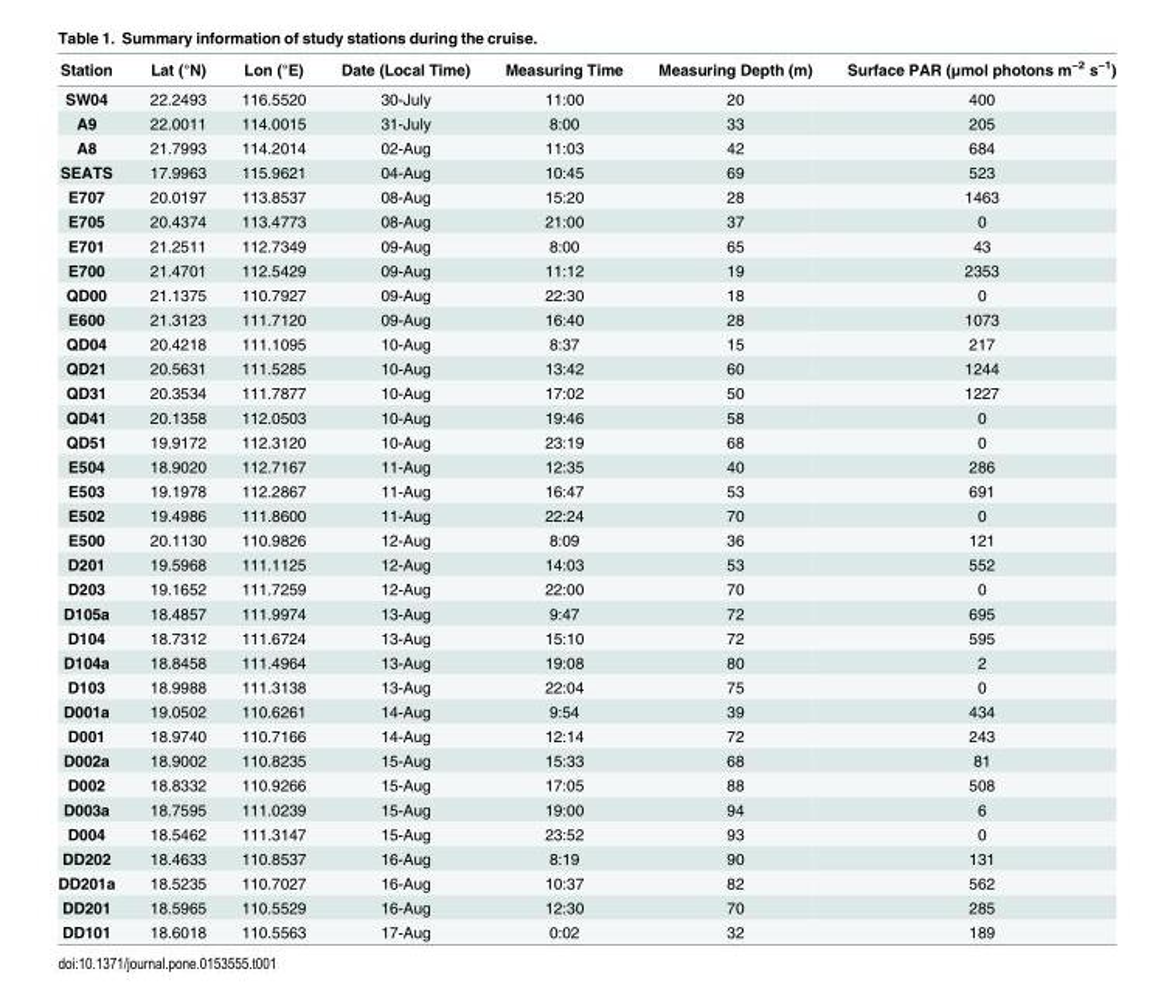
<table><thead><tr><td>Station</td><td>Lat (°N)</td><td>Lon (°E)</td><td>Date (Local Time)</td><td>Measuring Time</td><td>Measuring Depth (m)</td><td>Surface PAR (μmol photons m<sup>−2</sup> s<sup>−1</sup>)</td></tr></thead><tbody><tr><td>SW04</td><td>22.2493</td><td>116.5520</td><td>30-July</td><td>11:00</td><td>20</td><td>400</td></tr><tr><td>A9</td><td>22.0011</td><td>114.0015</td><td>31-July</td><td>8:00</td><td>33</td><td>205</td></tr><tr><td>A8</td><td>21.7993</td><td>114.2014</td><td>02-Aug</td><td>11:03</td><td>42</td><td>684</td></tr><tr><td>SEATS</td><td>17.9963</td><td>115.9621</td><td>04-Aug</td><td>10:45</td><td>69</td><td>523</td></tr><tr><td>E707</td><td>20.0197</td><td>113.8537</td><td>08-Aug</td><td>15:20</td><td>28</td><td>1463</td></tr><tr><td>E705</td><td>20.4374</td><td>113.4773</td><td>08-Aug</td><td>21:00</td><td>37</td><td>0</td></tr><tr><td>E701</td><td>21.2511</td><td>112.7349</td><td>09-Aug</td><td>8:00</td><td>65</td><td>43</td></tr><tr><td>E700</td><td>21.4701</td><td>112.5429</td><td>09-Aug</td><td>11:12</td><td>19</td><td>2353</td></tr><tr><td>QD00</td><td>21.1375</td><td>110.7927</td><td>09-Aug</td><td>22:30</td><td>18</td><td>0</td></tr><tr><td>E600</td><td>21.3123</td><td>111.7120</td><td>09-Aug</td><td>16:40</td><td>28</td><td>1073</td></tr><tr><td>QD04</td><td>20.4218</td><td>111.1095</td><td>10-Aug</td><td>8:37</td><td>15</td><td>217</td></tr><tr><td>QD21</td><td>20.5631</td><td>111.5285</td><td>10-Aug</td><td>13:42</td><td>60</td><td>1244</td></tr><tr><td>QD31</td><td>20.3534</td><td>111.7877</td><td>10-Aug</td><td>17:02</td><td>50</td><td>1227</td></tr><tr><td>QD41</td><td>20.1358</td><td>112.0503</td><td>10-Aug</td><td>19:46</td><td>58</td><td>0</td></tr><tr><td>QD51</td><td>19.9172</td><td>112.3120</td><td>10-Aug</td><td>23:19</td><td>68</td><td>0</td></tr><tr><td>E504</td><td>18.9020</td><td>112.7167</td><td>11-Aug</td><td>12:35</td><td>40</td><td>286</td></tr><tr><td>E503</td><td>19.1978</td><td>112.2867</td><td>11-Aug</td><td>16:47</td><td>53</td><td>691</td></tr><tr><td>E502</td><td>19.4986</td><td>111.8600</td><td>11-Aug</td><td>22:24</td><td>70</td><td>0</td></tr><tr><td>E500</td><td>20.1130</td><td>110.9826</td><td>12-Aug</td><td>8:09</td><td>36</td><td>121</td></tr><tr><td>D201</td><td>19.5968</td><td>111.1125</td><td>12-Aug</td><td>14:03</td><td>53</td><td>552</td></tr><tr><td>D203</td><td>19.1652</td><td>111.7259</td><td>12-Aug</td><td>22:00</td><td>70</td><td>0</td></tr><tr><td>D105a</td><td>18.4857</td><td>111.9974</td><td>13-Aug</td><td>9:47</td><td>72</td><td>695</td></tr><tr><td>D104</td><td>18.7312</td><td>111.6724</td><td>13-Aug</td><td>15:10</td><td>72</td><td>595</td></tr><tr><td>D104a</td><td>18.8458</td><td>111.4964</td><td>13-Aug</td><td>19:08</td><td>80</td><td>2</td></tr><tr><td>D103</td><td>18.9988</td><td>111.3138</td><td>13-Aug</td><td>22:04</td><td>75</td><td>0</td></tr><tr><td>D001a</td><td>19.0502</td><td>110.6261</td><td>14-Aug</td><td>9:54</td><td>39</td><td>434</td></tr><tr><td>D001</td><td>18.9740</td><td>110.7166</td><td>14-Aug</td><td>12:14</td><td>72</td><td>243</td></tr><tr><td>D002a</td><td>18.9002</td><td>110.8235</td><td>15-Aug</td><td>15:33</td><td>68</td><td>81</td></tr><tr><td>D002</td><td>18.8332</td><td>110.9266</td><td>15-Aug</td><td>17:05</td><td>88</td><td>508</td></tr><tr><td>D003a</td><td>18.7595</td><td>111.0239</td><td>15-Aug</td><td>19:00</td><td>94</td><td>6</td></tr><tr><td>D004</td><td>18.5462</td><td>111.3147</td><td>15-Aug</td><td>23:52</td><td>93</td><td>0</td></tr><tr><td>DD202</td><td>18.4633</td><td>110.8537</td><td>16-Aug</td><td>8:19</td><td>90</td><td>131</td></tr><tr><td>DD201a</td><td>18.5235</td><td>110.7027</td><td>16-Aug</td><td>10:37</td><td>82</td><td>562</td></tr><tr><td>DD201</td><td>18.5965</td><td>110.5529</td><td>16-Aug</td><td>12:30</td><td>70</td><td>285</td></tr><tr><td>DD101</td><td>18.6018</td><td>110.5563</td><td>17-Aug</td><td>0:02</td><td>32</td><td>189</td></tr></tbody></table>